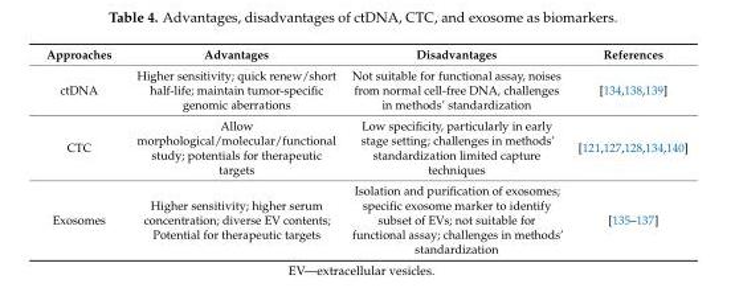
<table><thead><tr><td>Approaches</td><td>Advantages</td><td>Disadvantages</td><td>References</td></tr></thead><tbody><tr><td>ctDNA</td><td>Higher sensitivity; quick renew/short half-life; maintain tumor-specific genomic aberrations</td><td>Not suitable for functional assay, noises from normal cell-free DNA, challenges in methods’ standardization</td><td>[134,138,139]</td></tr><tr><td>CTC</td><td>Allow morphological/molecular/functional study; potentials for therapeutic targets</td><td>Low specificity, particularly in early stage setting; challenges in methods’ standardization limited capture techniques</td><td>[121,127,128,134,140]</td></tr><tr><td>Exosomes</td><td>Higher sensitivity; higher serum concentration; diverse EV contents; Potential for therapeutic targets</td><td>Isolation and purification of exosomes; specific exosome marker to identify subset of EVs; not suitable for functional assay; challenges in methods’ standardization</td><td>[135–137]</td></tr></tbody></table>